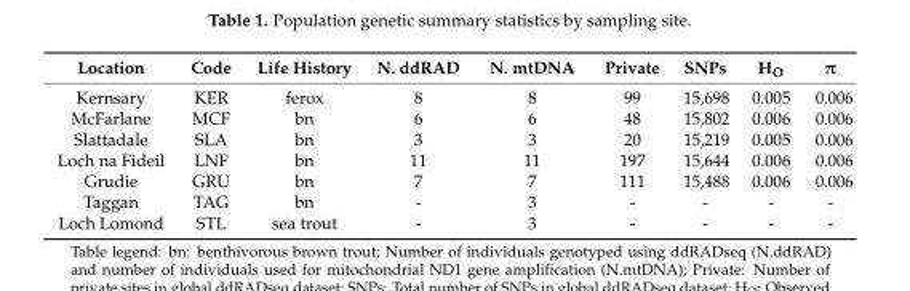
<table><thead><tr><td>Location</td><td>Code</td><td>Life History</td><td>N. ddRAD</td><td>N. mtDNA</td><td>Private</td><td>SNPs</td><td>H<sub>O</sub></td><td>π</td></tr></thead><tbody><tr><td>Kernsary</td><td>KER</td><td>ferox</td><td>8</td><td>8</td><td>99</td><td>15,698</td><td>0.005</td><td>0.006</td></tr><tr><td>McFarlane</td><td>MCF</td><td>bn</td><td>6</td><td>6</td><td>48</td><td>15,802</td><td>0.006</td><td>0.006</td></tr><tr><td>Slattadale</td><td>SLA</td><td>bn</td><td>3</td><td>3</td><td>20</td><td>15,219</td><td>0.005</td><td>0.006</td></tr><tr><td>Loch na Fideil</td><td>LNF</td><td>bn</td><td>11</td><td>11</td><td>197</td><td>15,644</td><td>0.006</td><td>0.006</td></tr><tr><td>Grudie</td><td>GRU</td><td>bn</td><td>7</td><td>7</td><td>111</td><td>15,488</td><td>0.006</td><td>0.006</td></tr><tr><td>Taggan</td><td>TAG</td><td>bn</td><td>-</td><td>3</td><td>-</td><td>-</td><td>-</td><td>-</td></tr><tr><td>Loch Lomond</td><td>STL</td><td>sea trout</td><td>-</td><td>3</td><td>-</td><td>-</td><td>-</td><td>-</td></tr></tbody></table>